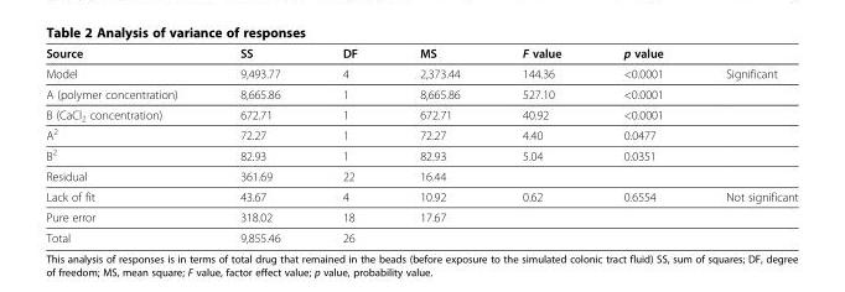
<table><thead><tr><td>Source</td><td>SS</td><td>DF</td><td>MS</td><td>F value</td><td>p value</td><td></td></tr></thead><tbody><tr><td>Model</td><td>9,493.77</td><td>4</td><td>2,373.44</td><td>144.36</td><td>&lt;0.0001</td><td>Significant</td></tr><tr><td>A (polymer concentration)</td><td>8,665.86</td><td>1</td><td>8,665.86</td><td>527.10</td><td>&lt;0.0001</td><td></td></tr><tr><td>B (CaCl<sub>2</sub> concentration)</td><td>672.71</td><td>1</td><td>672.71</td><td>40.92</td><td>&lt;0.0001</td><td></td></tr><tr><td>A<sup>2</sup></td><td>72.27</td><td>1</td><td>72.27</td><td>4.40</td><td>0.0477</td><td></td></tr><tr><td>B<sup>2</sup></td><td>82.93</td><td>1</td><td>82.93</td><td>5.04</td><td>0.0351</td><td></td></tr><tr><td>Residual</td><td>361.69</td><td>22</td><td>16.44</td><td></td><td></td><td></td></tr><tr><td>Lack of fit</td><td>43.67</td><td>4</td><td>10.92</td><td>0.62</td><td>0.6554</td><td>Not significant</td></tr><tr><td>Pure error</td><td>318.02</td><td>18</td><td>17.67</td><td></td><td></td><td></td></tr><tr><td>Total</td><td>9,855.46</td><td>26</td><td></td><td></td><td></td><td></td></tr></tbody></table>